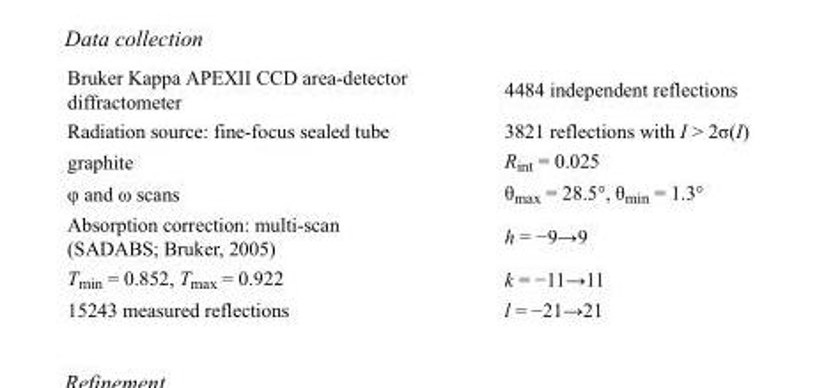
<table><tbody><tr><td>Bruker Kappa APEXII CCD area-detector diffractometer</td><td>4484 independent reflections</td></tr><tr><td>Radiation source: fine-focus sealed tube</td><td>3821 reflections with I &gt; 2σ(I)</td></tr><tr><td>graphite</td><td>R<sub>int</sub> = 0.025</td></tr><tr><td>φ and ω scans</td><td>θ<sub>max</sub> = 28.5°, θ<sub>min</sub> = 1.3°</td></tr><tr><td>Absorption correction: multi-scan (SADABS; Bruker, 2005)</td><td>h = −9→9</td></tr><tr><td>T<sub>min</sub> = 0.852, T<sub>max</sub> = 0.922</td><td>k = −11→11</td></tr><tr><td>15243 measured reflections</td><td>l = −21→21</td></tr></tbody></table>